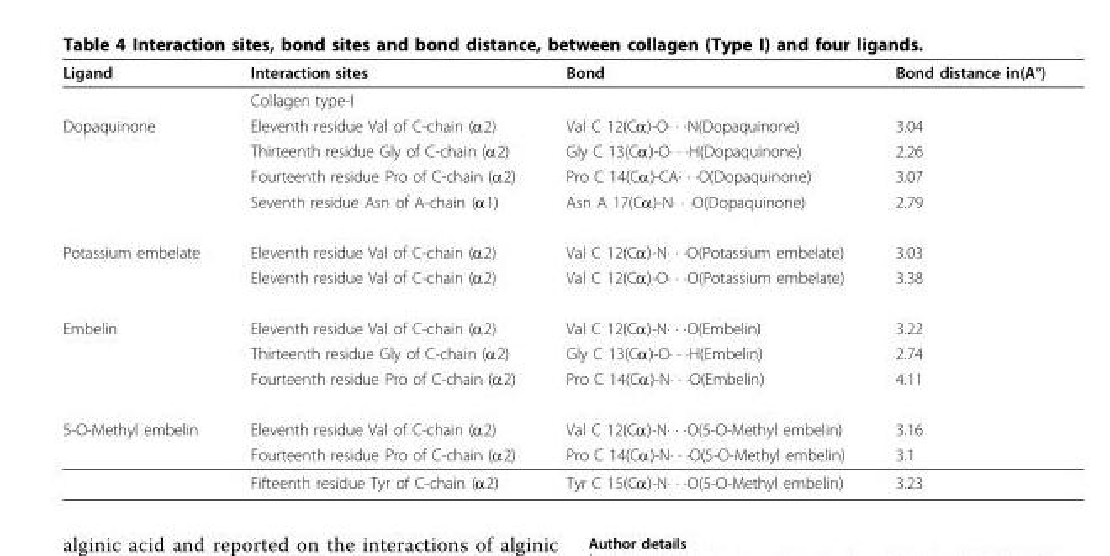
<table><thead><tr><td>Ligand</td><td>Interaction sites</td><td>Bond</td><td>Bond distance in(A°)</td></tr></thead><tbody><tr><td></td><td>Collagen type-I</td><td></td><td></td></tr><tr><td rowspan="4">Dopaquinone</td><td>Eleventh residue Val of C-chain (α2)</td><td>Val C 12(Cα)-O· · ·N(Dopaquinone)</td><td>3.04</td></tr><tr><td>Thirteenth residue Gly of C-chain (α2)</td><td>Gly C 13(Cα)-O· · ·H(Dopaquinone)</td><td>2.26</td></tr><tr><td>Fourteenth residue Pro of C-chain (α2)</td><td>Pro C 14(Cα)-CA· · ·O(Dopaquinone)</td><td>3.07</td></tr><tr><td>Seventh residue Asn of A-chain (α1)</td><td>Asn A 17(Cα)-N· · ·O(Dopaquinone)</td><td>2.79</td></tr><tr><td rowspan="2">Potassium embelate</td><td>Eleventh residue Val of C-chain (α2)</td><td>Val C 12(Cα)-N· · ·O(Potassium embelate)</td><td>3.03</td></tr><tr><td>Eleventh residue Val of C-chain (α2)</td><td>Val C 12(Cα)-O· · ·O(Potassium embelate)</td><td>3.38</td></tr><tr><td rowspan="3">Embelin</td><td>Eleventh residue Val of C-chain (α2)</td><td>Val C 12(Cα)-N· · ·O(Embelin)</td><td>3.22</td></tr><tr><td>Thirteenth residue Gly of C-chain (α2)</td><td>Gly C 13(Cα)-O· · ·H(Embelin)</td><td>2.74</td></tr><tr><td>Fourteenth residue Pro of C-chain (α2)</td><td>Pro C 14(Cα)-N· · ·O(Embelin)</td><td>4.11</td></tr><tr><td rowspan="3">5-O-Methyl embelin</td><td>Eleventh residue Val of C-chain (α2)</td><td>Val C 12(Cα)-N· · ·O(5-O-Methyl embelin)</td><td>3.16</td></tr><tr><td>Fourteenth residue Pro of C-chain (α2)</td><td>Pro C 14(Cα)-N· · ·O(5-O-Methyl embelin)</td><td>3.1</td></tr><tr><td>Fifteenth residue Tyr of C-chain (α2)</td><td>Tyr C 15(Cα)-N· · ·O(5-O-Methyl embelin)</td><td>3.23</td></tr></tbody></table>